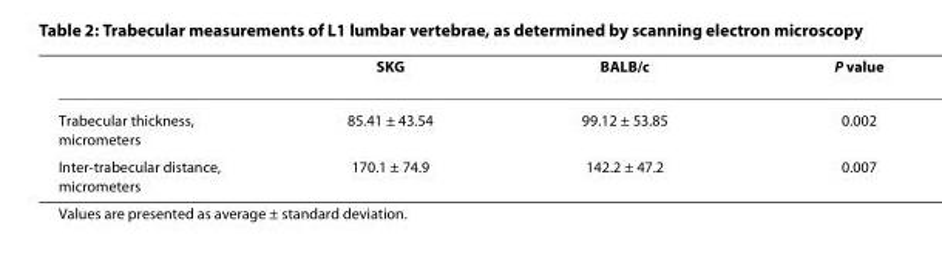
<table><thead><tr><td></td><td>SKG</td><td>BALB/c</td><td>P value</td></tr></thead><tbody><tr><td>Trabecular thickness, micrometers</td><td>85.41 ± 43.54</td><td>99.12 ± 53.85</td><td>0.002</td></tr><tr><td>Inter-trabecular distance, micrometers</td><td>170.1 ± 74.9</td><td>142.2 ± 47.2</td><td>0.007</td></tr></tbody></table>